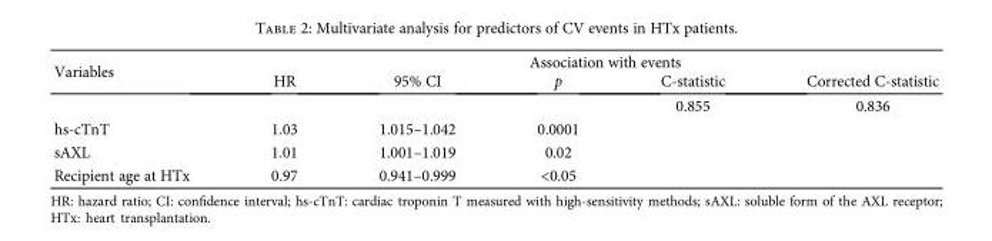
<table><thead><tr><td rowspan="2">Variables</td><td colspan="5">Association with events</td></tr><tr><td>HR</td><td>95% CI</td><td>p</td><td>C-statistic</td><td>Corrected C-statistic</td></tr></thead><tbody><tr><td></td><td></td><td></td><td></td><td>0.855</td><td>0.836</td></tr><tr><td>hs-cTnT</td><td>1.03</td><td>1.015–1.042</td><td>0.0001</td><td></td><td></td></tr><tr><td>sAXL</td><td>1.01</td><td>1.001–1.019</td><td>0.02</td><td></td><td></td></tr><tr><td>Recipient age at HTx</td><td>0.97</td><td>0.941–0.999</td><td>&lt;0.05</td><td></td><td></td></tr></tbody></table>